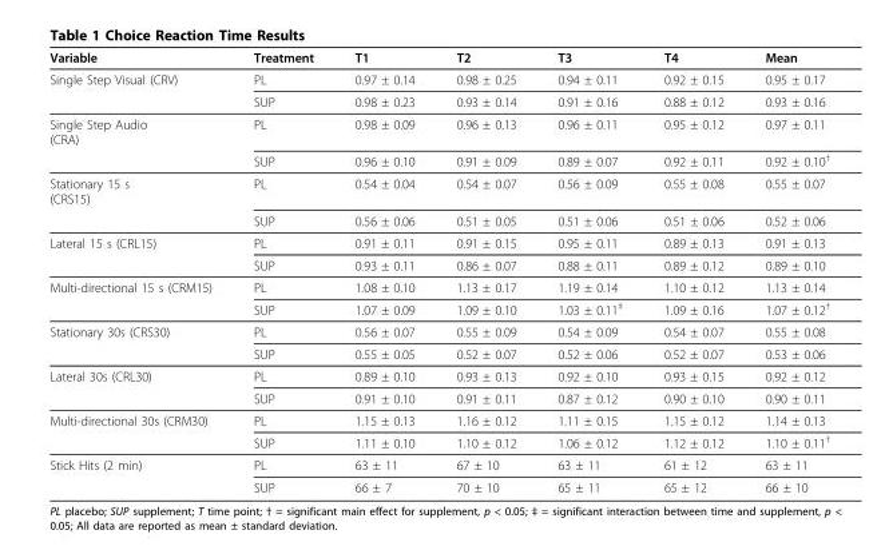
<table><thead><tr><td>Variable</td><td>Treatment</td><td>T1</td><td>T2</td><td>T3</td><td>T4</td><td>Mean</td></tr></thead><tbody><tr><td rowspan="2">Single Step Visual (CRV)</td><td>PL</td><td>0.97 ± 0.14</td><td>0.98 ± 0.25</td><td>0.94 ± 0.11</td><td>0.92 ± 0.15</td><td>0.95 ± 0.17</td></tr><tr><td>SUP</td><td>0.98 ± 0.23</td><td>0.93 ± 0.14</td><td>0.91 ± 0.16</td><td>0.88 ± 0.12</td><td>0.93 ± 0.16</td></tr><tr><td rowspan="2">Single Step Audio (CRA)</td><td>PL</td><td>0.98 ± 0.09</td><td>0.96 ± 0.13</td><td>0.96 ± 0.11</td><td>0.95 ± 0.12</td><td>0.97 ± 0.11</td></tr><tr><td>SUP</td><td>0.96 ± 0.10</td><td>0.91 ± 0.09</td><td>0.89 ± 0.07</td><td>0.92 ± 0.11</td><td>0.92 ± 0.10<sup>†</sup></td></tr><tr><td rowspan="2">Stationary 15 s (CRS15)</td><td>PL</td><td>0.54 ± 0.04</td><td>0.54 ± 0.07</td><td>0.56 ± 0.09</td><td>0.55 ± 0.08</td><td>0.55 ± 0.07</td></tr><tr><td>SUP</td><td>0.56 ± 0.06</td><td>0.51 ± 0.05</td><td>0.51 ± 0.06</td><td>0.51 ± 0.06</td><td>0.52 ± 0.06</td></tr><tr><td rowspan="2">Lateral 15 s (CRL15)</td><td>PL</td><td>0.91 ± 0.11</td><td>0.91 ± 0.15</td><td>0.95 ± 0.11</td><td>0.89 ± 0.13</td><td>0.91 ± 0.13</td></tr><tr><td>SUP</td><td>0.93 ± 0.11</td><td>0.86 ± 0.07</td><td>0.88 ± 0.11</td><td>0.89 ± 0.12</td><td>0.89 ± 0.10</td></tr><tr><td rowspan="2">Multi-directional 15 s (CRM15)</td><td>PL</td><td>1.08 ± 0.10</td><td>1.13 ± 0.17</td><td>1.19 ± 0.14</td><td>1.10 ± 0.12</td><td>1.13 ± 0.14</td></tr><tr><td>SUP</td><td>1.07 ± 0.09</td><td>1.09 ± 0.10</td><td>1.03 ± 0.11<sup>‡</sup></td><td>1.09 ± 0.16</td><td>1.07 ± 0.12<sup>†</sup></td></tr><tr><td rowspan="2">Stationary 30s (CRS30)</td><td>PL</td><td>0.56 ± 0.07</td><td>0.55 ± 0.09</td><td>0.54 ± 0.09</td><td>0.54 ± 0.07</td><td>0.55 ± 0.08</td></tr><tr><td>SUP</td><td>0.55 ± 0.05</td><td>0.52 ± 0.07</td><td>0.52 ± 0.06</td><td>0.52 ± 0.07</td><td>0.53 ± 0.06</td></tr><tr><td rowspan="2">Lateral 30s (CRL30)</td><td>PL</td><td>0.89 ± 0.10</td><td>0.93 ± 0.13</td><td>0.92 ± 0.10</td><td>0.93 ± 0.15</td><td>0.92 ± 0.12</td></tr><tr><td>SUP</td><td>0.91 ± 0.10</td><td>0.91 ± 0.11</td><td>0.87 ± 0.12</td><td>0.90 ± 0.10</td><td>0.90 ± 0.11</td></tr><tr><td rowspan="2">Multi-directional 30s (CRM30)</td><td>PL</td><td>1.15 ± 0.13</td><td>1.16 ± 0.12</td><td>1.11 ± 0.15</td><td>1.15 ± 0.12</td><td>1.14 ± 0.13</td></tr><tr><td>SUP</td><td>1.11 ± 0.10</td><td>1.10 ± 0.12</td><td>1.06 ± 0.12</td><td>1.12 ± 0.12</td><td>1.10 ± 0.11<sup>†</sup></td></tr><tr><td rowspan="2">Stick Hits (2 min)</td><td>PL</td><td>63 ± 11</td><td>67 ± 10</td><td>63 ± 11</td><td>61 ± 12</td><td>63 ± 11</td></tr><tr><td>SUP</td><td>66 ± 7</td><td>70 ± 10</td><td>65 ± 11</td><td>65 ± 12</td><td>66 ± 10</td></tr></tbody></table>